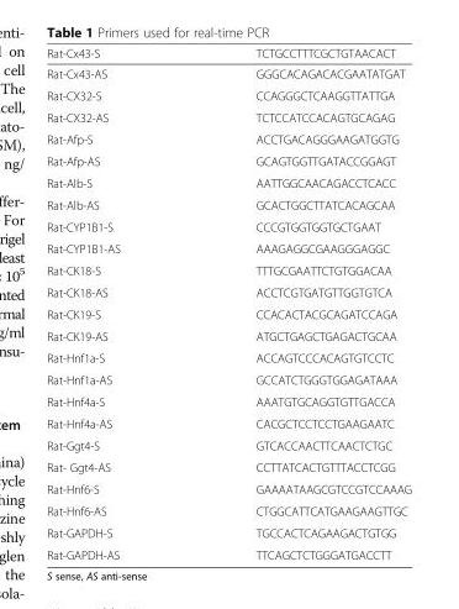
<table><thead><tr><td>Rat-Cx43-S</td><td>TCTGCCTTTCGCTGTAACACT</td></tr></thead><tbody><tr><td>Rat-Cx43-AS</td><td>GGGCACAGACACGAATATGAT</td></tr><tr><td>Rat-CX32-S</td><td>CCAGGGCTCAAGGTTATTGA</td></tr><tr><td>Rat-CX32-AS</td><td>TCTCCATCCACAGTGCAGAG</td></tr><tr><td>Rat-Afp-S</td><td>ACCTGACAGGGAAGATGGTG</td></tr><tr><td>Rat-Afp-AS</td><td>GCAGTGGTTGATACCGGAGT</td></tr><tr><td>Rat-Alb-S</td><td>AATTGGCAACAGACCTCACC</td></tr><tr><td>Rat-Alb-AS</td><td>GCACTGGCTTATCACAGCAA</td></tr><tr><td>Rat-CYP1B1-S</td><td>CCCGTGGTGGTGCTGAAT</td></tr><tr><td>Rat-CYP1B1-AS</td><td>AAAGAGGCGAAGGGAGGC</td></tr><tr><td>Rat-CK18-S</td><td>TTTGCGAATTCTGTGGACAA</td></tr><tr><td>Rat-CK18-AS</td><td>ACCTCGTGATGTTGGTGTCA</td></tr><tr><td>Rat-CK19-S</td><td>CCACACTACGCAGATCCAGA</td></tr><tr><td>Rat-CK19-AS</td><td>ATGCTGAGCTGAGACTGCAA</td></tr><tr><td>Rat-Hnf1a-S</td><td>ACCAGTCCCACAGTGTCCTC</td></tr><tr><td>Rat-Hnf1a-AS</td><td>GCCATCTGGGTGGAGATAAA</td></tr><tr><td>Rat-Hnf4a-S</td><td>AAATGTGCAGGTGTTGACCA</td></tr><tr><td>Rat-Hnf4a-AS</td><td>CACGCTCCTCCTGAAGAATC</td></tr><tr><td>Rat-Ggt4-S</td><td>GTCACCAACTTCAACTCTGC</td></tr><tr><td>Rat- Ggt4-AS</td><td>CCTTATCACTGTTTACCTCGG</td></tr><tr><td>Rat-Hnf6-S</td><td>GAAAATAAGCGTCCGTCCAAAG</td></tr><tr><td>Rat-Hnf6-AS</td><td>CTGGCATTCATGAAGAAGTTGC</td></tr><tr><td>Rat-GAPDH-S</td><td>TGCCACTCAGAAGACTGTGG</td></tr><tr><td>Rat-GAPDH-AS</td><td>TTCAGCTCTGGGATGACCTT</td></tr></tbody></table>